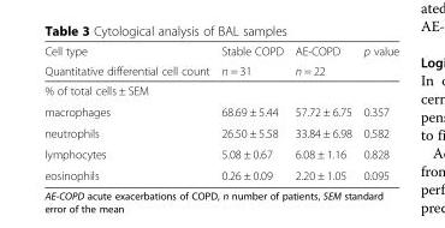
<table><thead><tr><td rowspan="2">Cell type Quantitative differential cell count</td><td rowspan="2">Stable COPD n = 31</td><td rowspan="2">AE-COPD n = 22</td><td rowspan="2">p value</td></tr><tr></tr></thead><tbody><tr><td colspan="4">% of total cells ± SEM</td></tr><tr><td>macrophages</td><td>68.69 ± 5.44</td><td>57.72 ± 6.75</td><td>0.357</td></tr><tr><td>neutrophils</td><td>26.50 ± 5.58</td><td>33.84 ± 6.98</td><td>0.582</td></tr><tr><td>lymphocytes</td><td>5.08 ± 0.67</td><td>6.08 ± 1.16</td><td>0.828</td></tr><tr><td>eosinophils</td><td>0.26 ± 0.09</td><td>2.20 ± 1.05</td><td>0.095</td></tr></tbody></table>